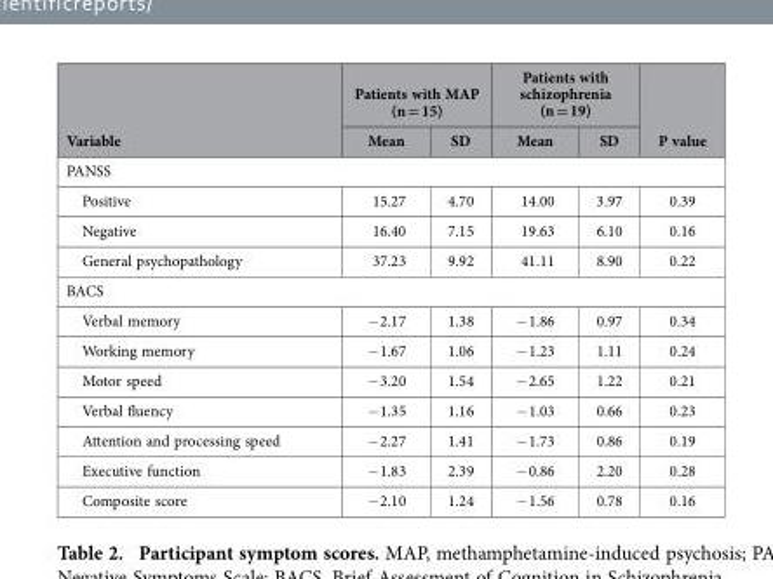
<table><thead><tr><td rowspan="2">Variable</td><td colspan="2">Patients with MAP (n = 15)</td><td colspan="2">Patients with schizophrenia (n = 19)</td><td rowspan="2">P value</td></tr><tr><td>Mean</td><td>SD</td><td>Mean</td><td>SD</td></tr></thead><tbody><tr><td colspan="6">PANSS</td></tr><tr><td>Positive</td><td>15.27</td><td>4.70</td><td>14.00</td><td>3.97</td><td>0.39</td></tr><tr><td>Negative</td><td>16.40</td><td>7.15</td><td>19.63</td><td>6.10</td><td>0.16</td></tr><tr><td>General psychopathology</td><td>37.23</td><td>9.92</td><td>41.11</td><td>8.90</td><td>0.22</td></tr><tr><td colspan="6">BACS</td></tr><tr><td>Verbal memory</td><td>− 2.17</td><td>1.38</td><td>− 1.86</td><td>0.97</td><td>0.34</td></tr><tr><td>Working memory</td><td>− 1.67</td><td>1.06</td><td>− 1.23</td><td>1.11</td><td>0.24</td></tr><tr><td>Motor speed</td><td>− 3.20</td><td>1.54</td><td>− 2.65</td><td>1.22</td><td>0.21</td></tr><tr><td>Verbal fluency</td><td>− 1.35</td><td>1.16</td><td>− 1.03</td><td>0.66</td><td>0.23</td></tr><tr><td>Attention and processing speed</td><td>− 2.27</td><td>1.41</td><td>− 1.73</td><td>0.86</td><td>0.19</td></tr><tr><td>Executive function</td><td>− 1.83</td><td>2.39</td><td>− 0.86</td><td>2.20</td><td>0.28</td></tr><tr><td>Composite score</td><td>− 2.10</td><td>1.24</td><td>− 1.56</td><td>0.78</td><td>0.16</td></tr></tbody></table>